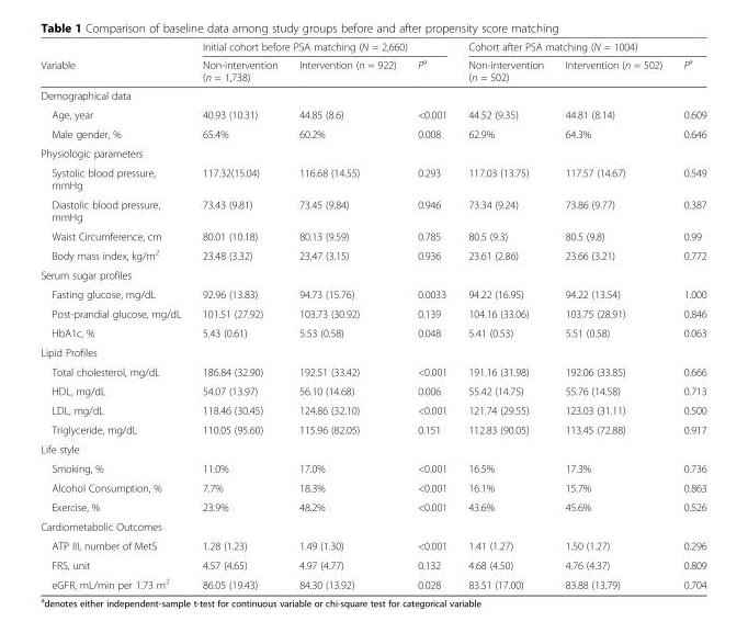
<table><thead><tr><td rowspan="2">Variable</td><td colspan="3">Initial cohort before PSA matching (N = 2,660)</td><td colspan="3">Cohort after PSA matching (N = 1004)</td></tr><tr><td>Non-intervention (n = 1,738)</td><td>Intervention (n = 922)</td><td>P<sup>a</sup></td><td>Non-intervention (n = 502)</td><td>Intervention (n = 502)</td><td>P<sup>a</sup></td></tr></thead><tbody><tr><td colspan="7">Demographical data</td></tr><tr><td>Age, year</td><td>40.93 (10.31)</td><td>44.85 (8.6)</td><td>&lt;0.001</td><td>44.52 (9.35)</td><td>44.81 (8.14)</td><td>0.609</td></tr><tr><td>Male gender, %</td><td>65.4%</td><td>60.2%</td><td>0.008</td><td>62.9%</td><td>64.3%</td><td>0.646</td></tr><tr><td colspan="7">Physiologic parameters</td></tr><tr><td>Systolic blood pressure, mmHg</td><td>117.32(15.04)</td><td>116.68 (14.55)</td><td>0.293</td><td>117.03 (13.75)</td><td>117.57 (14.67)</td><td>0.549</td></tr><tr><td>Diastolic blood pressure, mmHg</td><td>73.43 (9.81)</td><td>73.45 (9.84)</td><td>0.946</td><td>73.34 (9.24)</td><td>73.86 (9.77)</td><td>0.387</td></tr><tr><td>Waist Circumference, cm</td><td>80.01 (10.18)</td><td>80.13 (9.59)</td><td>0.785</td><td>80.5 (9.3)</td><td>80.5 (9.8)</td><td>0.99</td></tr><tr><td>Body mass index, kg/m<sup>2</sup></td><td>23.48 (3.32)</td><td>23.47 (3.15)</td><td>0.936</td><td>23.61 (2.86)</td><td>23.66 (3.21)</td><td>0.772</td></tr><tr><td colspan="7">Serum sugar profiles</td></tr><tr><td>Fasting glucose, mg/dL</td><td>92.96 (13.83)</td><td>94.73 (15.76)</td><td>0.0033</td><td>94.22 (16.95)</td><td>94.22 (13.54)</td><td>1.000</td></tr><tr><td>Post-prandial glucose, mg/dL</td><td>101.51 (27.92)</td><td>103.73 (30.92)</td><td>0.139</td><td>104.16 (33.06)</td><td>103.75 (28.91)</td><td>0.846</td></tr><tr><td>HbA1c, %</td><td>5.43 (0.61)</td><td>5.53 (0.58)</td><td>0.048</td><td>5.41 (0.53)</td><td>5.51 (0.58)</td><td>0.063</td></tr><tr><td colspan="7">Lipid Profiles</td></tr><tr><td>Total cholesterol, mg/dL</td><td>186.84 (32.90)</td><td>192.51 (33.42)</td><td>&lt;0.001</td><td>191.16 (31.98)</td><td>192.06 (33.85)</td><td>0.666</td></tr><tr><td>HDL, mg/dL</td><td>54.07 (13.97)</td><td>56.10 (14.68)</td><td>0.006</td><td>55.42 (14.75)</td><td>55.76 (14.58)</td><td>0.713</td></tr><tr><td>LDL, mg/dL</td><td>118.46 (30.45)</td><td>124.86 (32.10)</td><td>&lt;0.001</td><td>121.74 (29.55)</td><td>123.03 (31.11)</td><td>0.500</td></tr><tr><td>Triglyceride, mg/dL</td><td>110.05 (95.60)</td><td>115.96 (82.05)</td><td>0.151</td><td>112.83 (90.05)</td><td>113.45 (72.88)</td><td>0.917</td></tr><tr><td colspan="7">Life style</td></tr><tr><td>Smoking, %</td><td>11.0%</td><td>17.0%</td><td>&lt;0.001</td><td>16.5%</td><td>17.3%</td><td>0.736</td></tr><tr><td>Alcohol Consumption, %</td><td>7.7%</td><td>18.3%</td><td>&lt;0.001</td><td>16.1%</td><td>15.7%</td><td>0.863</td></tr><tr><td>Exercise, %</td><td>23.9%</td><td>48.2%</td><td>&lt;0.001</td><td>43.6%</td><td>45.6%</td><td>0.526</td></tr><tr><td colspan="7">Cardiometabolic Outcomes</td></tr><tr><td>ATP III, number of MetS</td><td>1.28 (1.23)</td><td>1.49 (1.30)</td><td>&lt;0.001</td><td>1.41 (1.27)</td><td>1.50 (1.27)</td><td>0.296</td></tr><tr><td>FRS, unit</td><td>4.57 (4.65)</td><td>4.97 (4.77)</td><td>0.132</td><td>4.68 (4.50)</td><td>4.76 (4.37)</td><td>0.809</td></tr><tr><td>eGFR, mL/min per 1.73 m<sup>2</sup></td><td>86.05 (19.43)</td><td>84.30 (13.92)</td><td>0.028</td><td>83.51 (17.00)</td><td>83.88 (13.79)</td><td>0.704</td></tr></tbody></table>